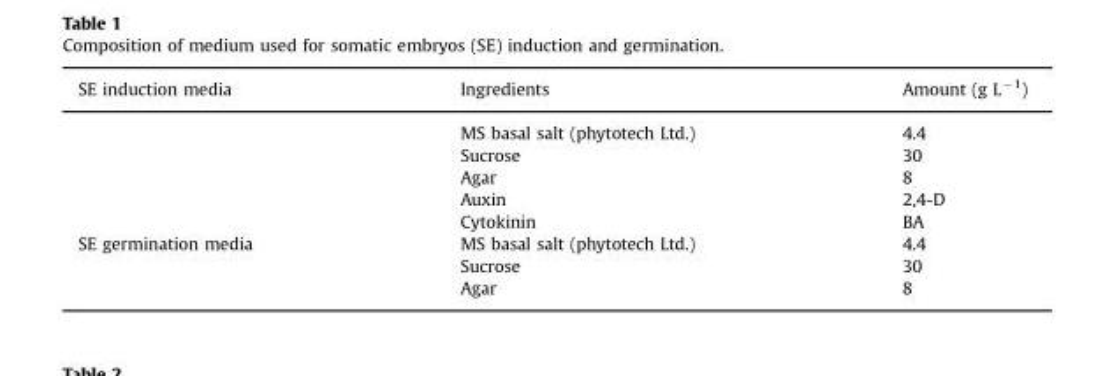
<table><thead><tr><td>SE induction media</td><td>Ingredients</td><td>Amount (g L<sup>−1</sup>)</td></tr></thead><tbody><tr><td rowspan="5"></td><td>MS basal salt (phytotech Ltd.)</td><td>4.4</td></tr><tr><td>Sucrose</td><td>30</td></tr><tr><td>Agar</td><td>8</td></tr><tr><td>Auxin</td><td>2,4-D</td></tr><tr><td>Cytokinin</td><td>BA</td></tr><tr><td rowspan="3">SE germination media</td><td>MS basal salt (phytotech Ltd.)</td><td>4.4</td></tr><tr><td>Sucrose</td><td>30</td></tr><tr><td>Agar</td><td>8</td></tr></tbody></table>